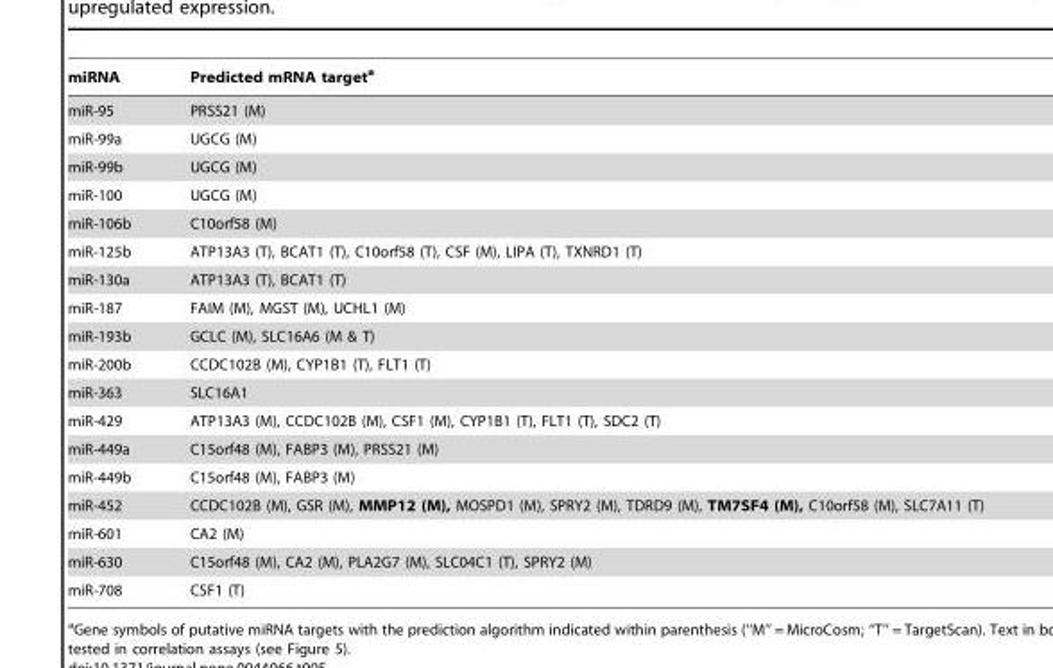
<table><thead><tr><td>miRNA</td><td>Predicted mRNA target<sup>a</sup></td></tr></thead><tbody><tr><td>miR-95</td><td>PRSS21 (M)</td></tr><tr><td>miR-99a</td><td>UGCG (M)</td></tr><tr><td>miR-99b</td><td>UGCG (M)</td></tr><tr><td>miR-100</td><td>UGCG (M)</td></tr><tr><td>miR-106b</td><td>C10orf58 (M)</td></tr><tr><td>miR-125b</td><td>ATP13A3 (T), BCAT1 (T), C10orf58 (T), CSF (M), LIPA (T), TXNRD1 (T)</td></tr><tr><td>miR-130a</td><td>ATP13A3 (T), BCAT1 (T)</td></tr><tr><td>miR-187</td><td>FAIM (M), MGST (M), UCHL1 (M)</td></tr><tr><td>miR-193b</td><td>GCLC (M), SLC16A6 (M &amp; T)</td></tr><tr><td>miR-200b</td><td>CCDC102B (M), CYP1B1 (T), FLT1 (T)</td></tr><tr><td>miR-363</td><td>SLC16A1</td></tr><tr><td>miR-429</td><td>ATP13A3 (M), CCDC102B (M), CSF1 (M), CYP1B1 (T), FLT1 (T), SDC2 (T)</td></tr><tr><td>miR-449a</td><td>C15orf48 (M), FABP3 (M), PRSS21 (M)</td></tr><tr><td>miR-449b</td><td>C15orf48 (M), FABP3 (M)</td></tr><tr><td>miR-452</td><td>CCDC102B (M), GSR (M), MMP12 (M), MOSPD1 (M), SPRY2 (M), TDRD9 (M), TM7SF4 (M), C10orf58 (M), SLC7A11 (T)</td></tr><tr><td>miR-601</td><td>CA2 (M)</td></tr><tr><td>miR-630</td><td>C15orf48 (M), CA2 (M), PLA2G7 (M), SLC04C1 (T), SPRY2 (M)</td></tr><tr><td>miR-708</td><td>CSF1 (T)</td></tr></tbody></table>